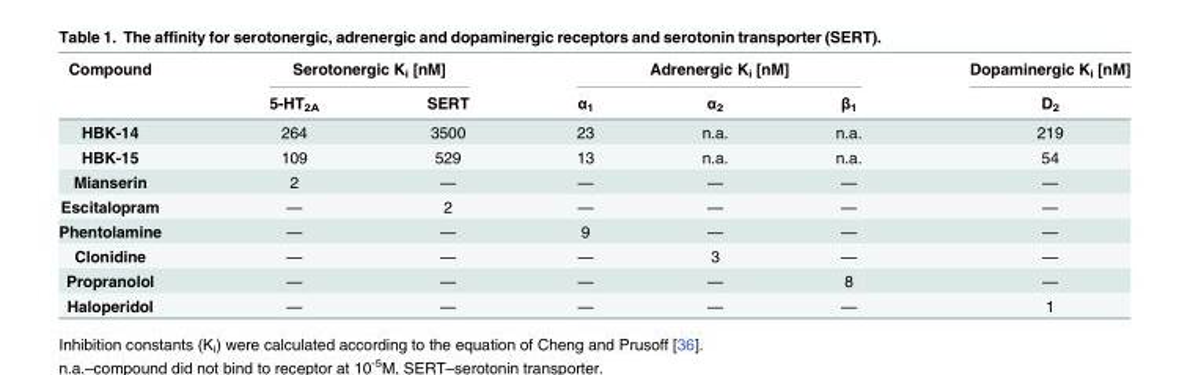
<table><thead><tr><td rowspan="2">Compound</td><td colspan="2">Serotonergic K<sub>i</sub> [nM]</td><td colspan="3">Adrenergic K<sub>i</sub> [nM]</td><td rowspan="2">Dopaminergic K<sub>i</sub> [nM] D<sub>2</sub></td></tr><tr><td>5-HT<sub>2A</sub></td><td>SERT</td><td>α<sub>1</sub></td><td>α<sub>2</sub></td><td>β<sub>1</sub></td></tr></thead><tbody><tr><td>HBK-14</td><td>264</td><td>3500</td><td>23</td><td>n.a.</td><td>n.a.</td><td>219</td></tr><tr><td>HBK-15</td><td>109</td><td>529</td><td>13</td><td>n.a.</td><td>n.a.</td><td>54</td></tr><tr><td>Mianserin</td><td>2</td><td>—</td><td>—</td><td>—</td><td>—</td><td>—</td></tr><tr><td>Escitalopram</td><td>—</td><td>2</td><td>—</td><td>—</td><td>—</td><td>—</td></tr><tr><td>Phentolamine</td><td>—</td><td>—</td><td>9</td><td>—</td><td>—</td><td>—</td></tr><tr><td>Clonidine</td><td>—</td><td>—</td><td>—</td><td>3</td><td>—</td><td>—</td></tr><tr><td>Propranolol</td><td>—</td><td>—</td><td>—</td><td>—</td><td>8</td><td>—</td></tr><tr><td>Haloperidol</td><td>—</td><td>—</td><td>—</td><td>—</td><td>—</td><td>1</td></tr></tbody></table>